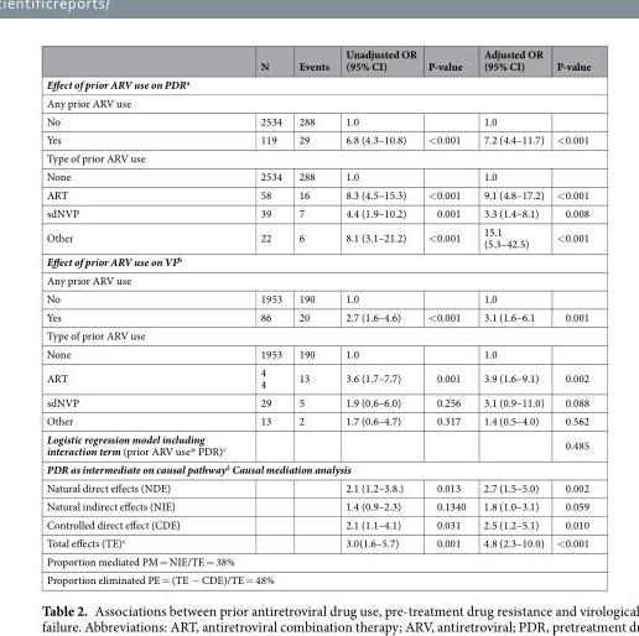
<table><thead><tr><td></td><td>N</td><td>Events</td><td>Unadjusted OR (95% CI)</td><td>P-value</td><td>Adjusted OR (95% CI)</td><td>P-value</td></tr></thead><tbody><tr><td colspan="7">Effect of prior ARV use on PDR<sup>a</sup></td></tr><tr><td colspan="7">Any prior ARV use</td></tr><tr><td>No</td><td>2534</td><td>288</td><td>1.0</td><td></td><td>1.0</td><td></td></tr><tr><td>Yes</td><td>119</td><td>29</td><td>6.8 (4.3–10.8)</td><td>&lt;0.001</td><td>7.2 (4.4–11.7)</td><td>&lt;0.001</td></tr><tr><td colspan="7">Type of prior ARV use</td></tr><tr><td>None</td><td>2534</td><td>288</td><td>1.0</td><td></td><td>1.0</td><td></td></tr><tr><td>ART</td><td>58</td><td>16</td><td>8.3 (4.5–15.3)</td><td>&lt;0.001</td><td>9.1 (4.8–17.2)</td><td>&lt;0.001</td></tr><tr><td>sdNVP</td><td>39</td><td>7</td><td>4.4 (1.9–10.2)</td><td>0.001</td><td>3.3 (1.4–8.1)</td><td>0.008</td></tr><tr><td>Other</td><td>22</td><td>6</td><td>8.1 (3.1–21.2)</td><td>&lt;0.001</td><td>15.1 (5.3–42.5)</td><td>&lt;0.001</td></tr><tr><td colspan="7">Effect of prior ARV use on VF<sup>b</sup></td></tr><tr><td colspan="7">Any prior ARV use</td></tr><tr><td>No</td><td>1953</td><td>190</td><td>1.0</td><td></td><td>1.0</td><td></td></tr><tr><td>Yes</td><td>86</td><td>20</td><td>2.7 (1.6–4.6)</td><td>&lt;0.001</td><td>3.1 (1.6–6.1</td><td>0.001</td></tr><tr><td colspan="7">Type of prior ARV use</td></tr><tr><td>None</td><td>1953</td><td>190</td><td>1.0</td><td></td><td>1.0</td><td></td></tr><tr><td>ART</td><td>4 4</td><td>13</td><td>3.6 (1.7–7.7)</td><td>0.001</td><td>3.9 (1.6–9.1)</td><td>0.002</td></tr><tr><td>sdNVP</td><td>29</td><td>5</td><td>1.9 (0.6–6.0)</td><td>0.256</td><td>3.1 (0.9–11.0)</td><td>0.088</td></tr><tr><td>Other</td><td>13</td><td>2</td><td>1.7 (0.6–4.7)</td><td>0.317</td><td>1.4 (0.5–4.0)</td><td>0.562</td></tr><tr><td>Logistic regression model including interaction term (prior ARV use* PDR)<sup>c</sup></td><td></td><td></td><td></td><td></td><td></td><td>0.485</td></tr><tr><td colspan="7">PDR as intermediate on causal pathway<sup>d</sup> Causal mediation analysis</td></tr><tr><td>Natural direct effects (NDE)</td><td></td><td></td><td>2.1 (1.2–3.8.)</td><td>0.013</td><td>2.7 (1.5–5.0)</td><td>0.002</td></tr><tr><td>Natural indirect effects (NIE)</td><td></td><td></td><td>1.4 (0.9–2.3)</td><td>0.1340</td><td>1.8 (1.0–3.1)</td><td>0.059</td></tr><tr><td>Controlled direct effect (CDE)</td><td></td><td></td><td>2.1 (1.1–4.1)</td><td>0.031</td><td>2.5 (1.2–5.1)</td><td>0.010</td></tr><tr><td>Total effects (TE)<sup>e</sup></td><td></td><td></td><td>3.0(1.6–5.7)</td><td>0.001</td><td>4.8 (2.3–10.0)</td><td>&lt;0.001</td></tr><tr><td colspan="7">Proportion mediated PM = NIE/TE = 38%</td></tr><tr><td colspan="7">Proportion eliminated PE = (TE − CDE)/TE = 48%</td></tr></tbody></table>